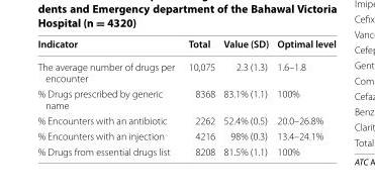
<table><thead><tr><td>Indicator</td><td>Total</td><td>Value (SD)</td><td>Optimal level</td></tr></thead><tbody><tr><td>The average number of drugs per encounter</td><td>10,075</td><td>2.3 (1.3)</td><td>1.6–1.8</td></tr><tr><td>% Drugs prescribed by generic name</td><td>8368</td><td>83.1% (1.1)</td><td>100%</td></tr><tr><td>% Encounters with an antibiotic</td><td>2262</td><td>52.4% (0.5)</td><td>20.0–26.8%</td></tr><tr><td>% Encounters with an injection</td><td>4216</td><td>98% (0.3)</td><td>13.4–24.1%</td></tr><tr><td>% Drugs from essential drugs list</td><td>8208</td><td>81.5% (1.1)</td><td>100%</td></tr></tbody></table>